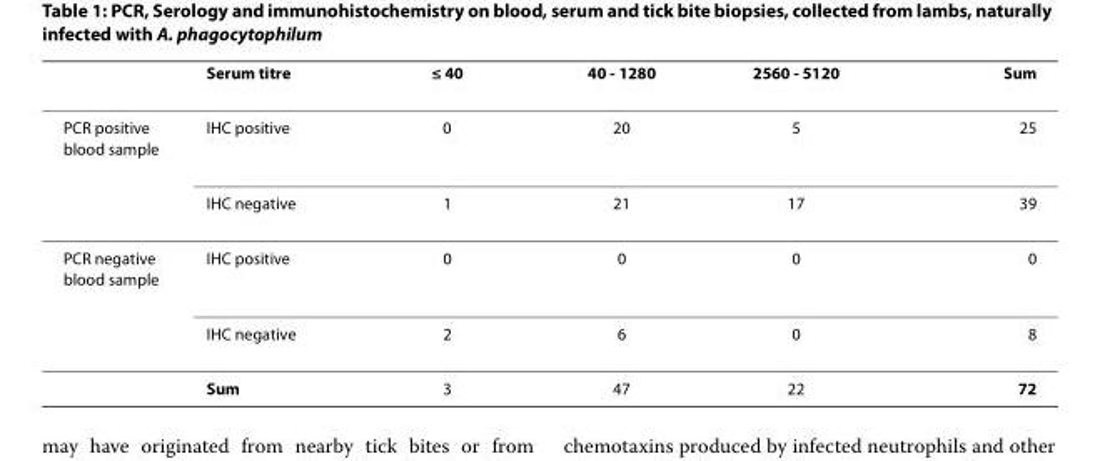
<table><thead><tr><td></td><td>Serum titre</td><td>≤ 40</td><td>40 - 1280</td><td>2560 - 5120</td><td>Sum</td></tr></thead><tbody><tr><td rowspan="2">PCR positive blood sample</td><td>IHC positive</td><td>0</td><td>20</td><td>5</td><td>25</td></tr><tr><td>IHC negative</td><td>1</td><td>21</td><td>17</td><td>39</td></tr><tr><td rowspan="3">PCR negative blood sample</td><td>IHC positive</td><td>0</td><td>0</td><td>0</td><td>0</td></tr><tr><td>IHC negative</td><td>2</td><td>6</td><td>0</td><td>8</td></tr><tr><td>Sum</td><td>3</td><td>47</td><td>22</td><td>72</td></tr></tbody></table>